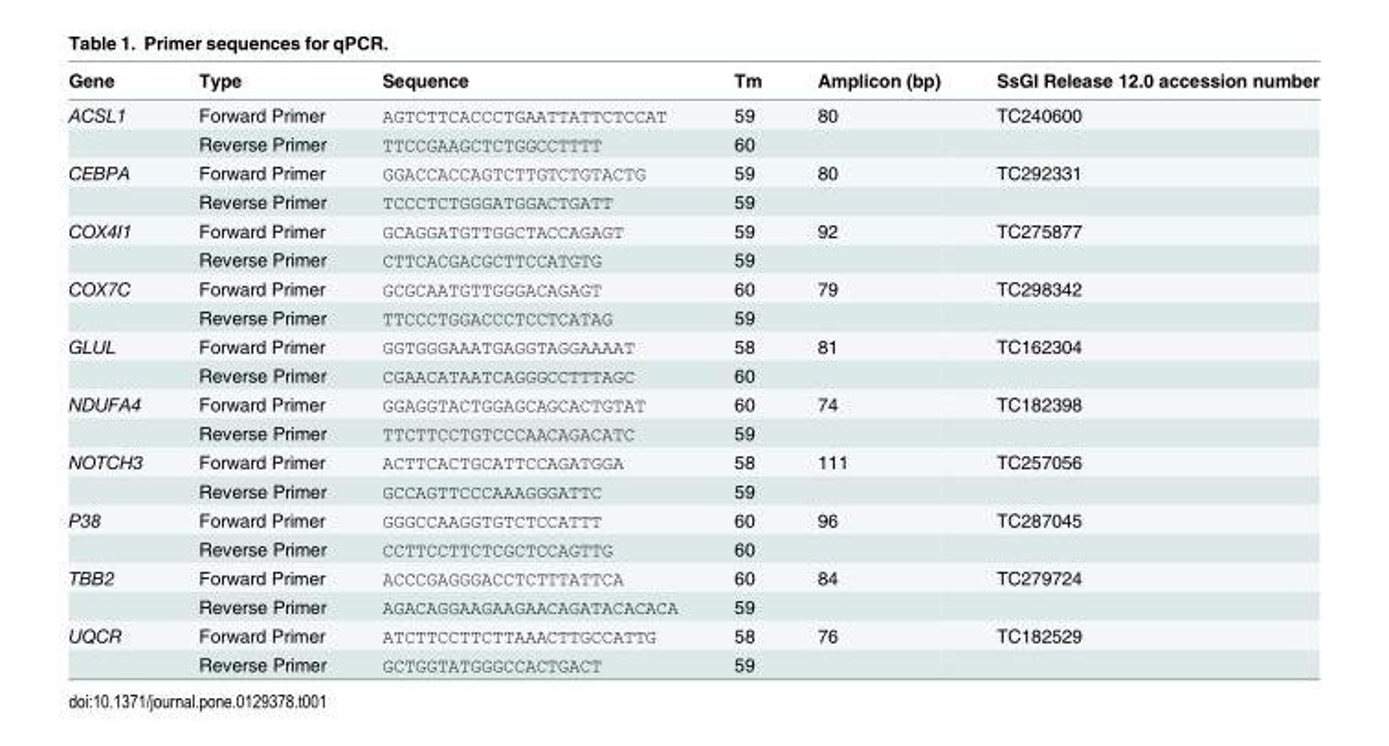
<table><thead><tr><td>Gene</td><td>Type</td><td>Sequence</td><td>Tm</td><td>Amplicon (bp)</td><td>SsGI Release 12.0 accession number</td></tr></thead><tbody><tr><td rowspan="2">ACSL1</td><td>Forward Primer</td><td>AGTCTTCACCCTGAATTATTCTCCAT</td><td>59</td><td>80</td><td>TC240600</td></tr><tr><td>Reverse Primer</td><td>TTCCGAAGCTCTGGCCTTTT</td><td>60</td><td></td><td></td></tr><tr><td rowspan="2">CEBPA</td><td>Forward Primer</td><td>GGACCACCAGTCTTGTCTGTACTG</td><td>59</td><td>80</td><td>TC292331</td></tr><tr><td>Reverse Primer</td><td>TCCCTCTGGGATGGACTGATT</td><td>59</td><td></td><td></td></tr><tr><td rowspan="2">COX4I1</td><td>Forward Primer</td><td>GCAGGATGTTGGCTACCAGAGT</td><td>59</td><td>92</td><td>TC275877</td></tr><tr><td>Reverse Primer</td><td>CTTCACGACGCTTCCATGTG</td><td>59</td><td></td><td></td></tr><tr><td rowspan="2">COX7C</td><td>Forward Primer</td><td>GCGCAATGTTGGGACAGAGT</td><td>60</td><td>79</td><td>TC298342</td></tr><tr><td>Reverse Primer</td><td>TTCCCTGGACCCTCCTCATAG</td><td>59</td><td></td><td></td></tr><tr><td rowspan="2">GLUL</td><td>Forward Primer</td><td>GGTGGGAAATGAGGTAGGAAAAT</td><td>58</td><td>81</td><td>TC162304</td></tr><tr><td>Reverse Primer</td><td>CGAACATAATCAGGGCCTTTAGC</td><td>60</td><td></td><td></td></tr><tr><td rowspan="2">NDUFA4</td><td>Forward Primer</td><td>GGAGGTACTGGAGCAGCACTGTAT</td><td>60</td><td>74</td><td>TC182398</td></tr><tr><td>Reverse Primer</td><td>TTCTTCCTGTCCCAACAGACATC</td><td>59</td><td></td><td></td></tr><tr><td rowspan="2">NOTCH3</td><td>Forward Primer</td><td>ACTTCACTGCATTCCAGATGGA</td><td>58</td><td>111</td><td>TC257056</td></tr><tr><td>Reverse Primer</td><td>GCCAGTTCCCAAAGGGATTC</td><td>59</td><td></td><td></td></tr><tr><td rowspan="2">P38</td><td>Forward Primer</td><td>GGGCCAAGGTGTCTCCATTT</td><td>60</td><td>96</td><td>TC287045</td></tr><tr><td>Reverse Primer</td><td>CCTTCCTTCTCGCTCCAGTTG</td><td>60</td><td></td><td></td></tr><tr><td rowspan="2">TBB2</td><td>Forward Primer</td><td>ACCCGAGGGACCTCTTTATTCA</td><td>60</td><td>84</td><td>TC279724</td></tr><tr><td>Reverse Primer</td><td>AGACAGGAAGAAGAACAGATACACACA</td><td>59</td><td></td><td></td></tr><tr><td rowspan="2">UQCR</td><td>Forward Primer</td><td>ATCTTCCTTCTTAAACTTGCCATTG</td><td>58</td><td>76</td><td>TC182529</td></tr><tr><td>Reverse Primer</td><td>GCTGGTATGGGCCACTGACT</td><td>59</td><td></td><td></td></tr></tbody></table>